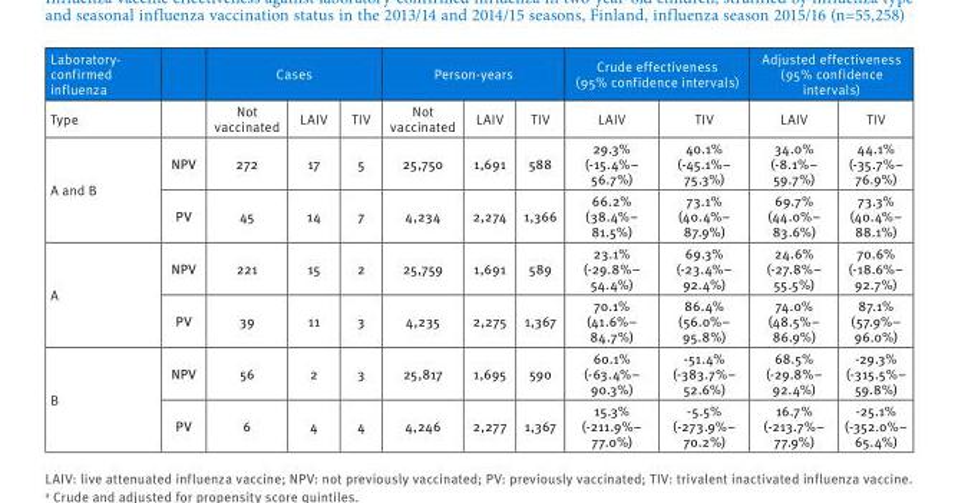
<table><thead><tr><td rowspan="2">Laboratory- confirmed influenza Type</td><td rowspan="2"></td><td colspan="3">Cases</td><td colspan="3">Person-years</td><td colspan="2">Crude effectiveness (95% confidence intervals)</td><td colspan="2">Adjusted effectiveness (95% confidence intervals)</td></tr><tr><td>Not vaccinated</td><td>LAIV</td><td>TIV</td><td>Not vaccinated</td><td>LAIV</td><td>TIV</td><td>LAIV</td><td>TIV</td><td>LAIV</td><td>TIV</td></tr></thead><tbody><tr><td rowspan="2">A and B</td><td>NPV</td><td>272</td><td>17</td><td>5</td><td>25,750</td><td>1,691</td><td>588</td><td>29.3% (-15.4%– 56.7%)</td><td>40.1% (-45.1%– 75.3%)</td><td>34.0% (-8.1%– 59.7%)</td><td>44.1% (-35.7%– 76.9%)</td></tr><tr><td>PV</td><td>45</td><td>14</td><td>7</td><td>4,234</td><td>2,274</td><td>1,366</td><td>66.2% (38.4%– 81.5%)</td><td>73.1% (40.4%– 87.9%)</td><td>69.7% (44.0%– 83.6%)</td><td>73.3% (40.4%– 88.1%)</td></tr><tr><td rowspan="2">A</td><td>NPV</td><td>221</td><td>15</td><td>2</td><td>25,759</td><td>1,691</td><td>589</td><td>23.1% (-29.8%– 54.4%)</td><td>69.3% (-23.4%– 92.4%)</td><td>24.6% (-27.8%– 55.5%)</td><td>70.6% (-18.6%– 92.7%)</td></tr><tr><td>PV</td><td>39</td><td>11</td><td>3</td><td>4,235</td><td>2,275</td><td>1,367</td><td>70.1% (41.6%– 84.7%)</td><td>86.4% (56.0%– 95.8%)</td><td>74.0% (48.5%– 86.9%)</td><td>87.1% (57.9%– 96.0%)</td></tr><tr><td rowspan="2">B</td><td>NPV</td><td>56</td><td>2</td><td>3</td><td>25,817</td><td>1,695</td><td>590</td><td>60.1% (-63.4%– 90.3%)</td><td>-51.4% (-383.7%– 52.6%)</td><td>68.5% (-29.8%– 92.4%)</td><td>-29.3% (-315.5%– 59.8%)</td></tr><tr><td>PV</td><td>6</td><td>4</td><td>4</td><td>4,246</td><td>2,277</td><td>1,367</td><td>15.3% (-211.9%– 77.0%)</td><td>-5.5% (-273.9%– 70.2%)</td><td>16.7% (-213.7%– 77.9%)</td><td>-25.1% (-352.0%– 65.4%)</td></tr></tbody></table>